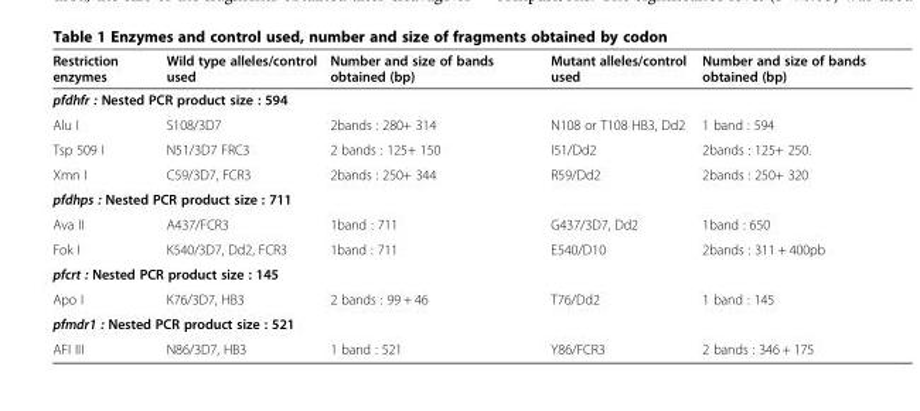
<table><thead><tr><td>Restriction enzymes</td><td>Wild type alleles/control used</td><td>Number and size of bands obtained (bp)</td><td>Mutant alleles/control used</td><td>Number and size of bands obtained (bp)</td></tr></thead><tbody><tr><td colspan="5">pfdhfr : Nested PCR product size : 594</td></tr><tr><td>Alu I</td><td>S108/3D7</td><td>2bands : 280+ 314</td><td>N108 or T108 HB3, Dd2</td><td>1 band : 594</td></tr><tr><td>Tsp 509 I</td><td>N51/3D7 FRC3</td><td>2 bands : 125+ 150</td><td>I51/Dd2</td><td>2bands : 125+ 250.</td></tr><tr><td>Xmn I</td><td>C59/3D7, FCR3</td><td>2bands : 250+ 344</td><td>R59/Dd2</td><td>2bands : 250+ 320</td></tr><tr><td colspan="5">pfdhps : Nested PCR product size : 711</td></tr><tr><td>Ava II</td><td>A437/FCR3</td><td>1band : 711</td><td>G437/3D7, Dd2</td><td>1band : 650</td></tr><tr><td>Fok I</td><td>K540/3D7, Dd2, FCR3</td><td>1band : 711</td><td>E540/D10</td><td>2bands : 311 + 400pb</td></tr><tr><td colspan="5">pfcrt : Nested PCR product size : 145</td></tr><tr><td>Apo I</td><td>K76/3D7, HB3</td><td>2 bands : 99 + 46</td><td>T76/Dd2</td><td>1 band : 145</td></tr><tr><td colspan="5">pfmdr1 : Nested PCR product size : 521</td></tr><tr><td>AFI III</td><td>N86/3D7, HB3</td><td>1 band : 521</td><td>Y86/FCR3</td><td>2 bands : 346 + 175</td></tr></tbody></table>